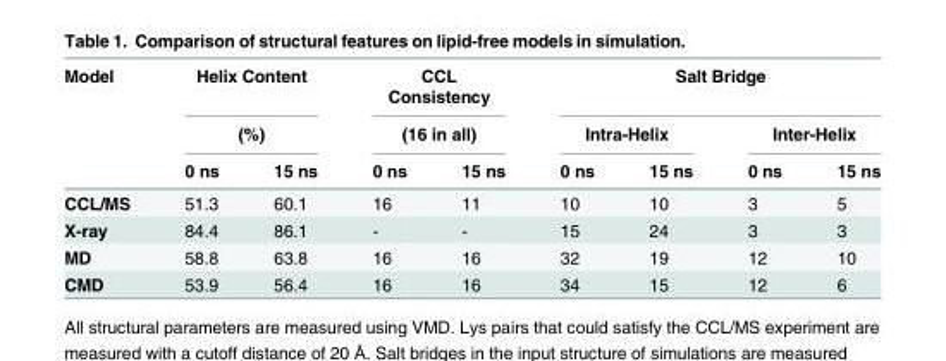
<table><thead><tr><td rowspan="3">Model</td><td rowspan="2" colspan="2">Helix Content (%)</td><td rowspan="2" colspan="2">CCL Consistency (16 in all)</td><td colspan="4">Salt Bridge</td></tr><tr><td colspan="2">Intra-Helix</td><td colspan="2">Inter-Helix</td></tr><tr><td>0 ns</td><td>15 ns</td><td>0 ns</td><td>15 ns</td><td>0 ns</td><td>15 ns</td><td>0 ns</td><td>15 ns</td></tr></thead><tbody><tr><td>CCL/MS</td><td>51.3</td><td>60.1</td><td>16</td><td>11</td><td>10</td><td>10</td><td>3</td><td>5</td></tr><tr><td>X-ray</td><td>84.4</td><td>86.1</td><td>-</td><td>-</td><td>15</td><td>24</td><td>3</td><td>3</td></tr><tr><td>MD</td><td>58.8</td><td>63.8</td><td>16</td><td>16</td><td>32</td><td>19</td><td>12</td><td>10</td></tr><tr><td>CMD</td><td>53.9</td><td>56.4</td><td>16</td><td>16</td><td>34</td><td>15</td><td>12</td><td>6</td></tr></tbody></table>